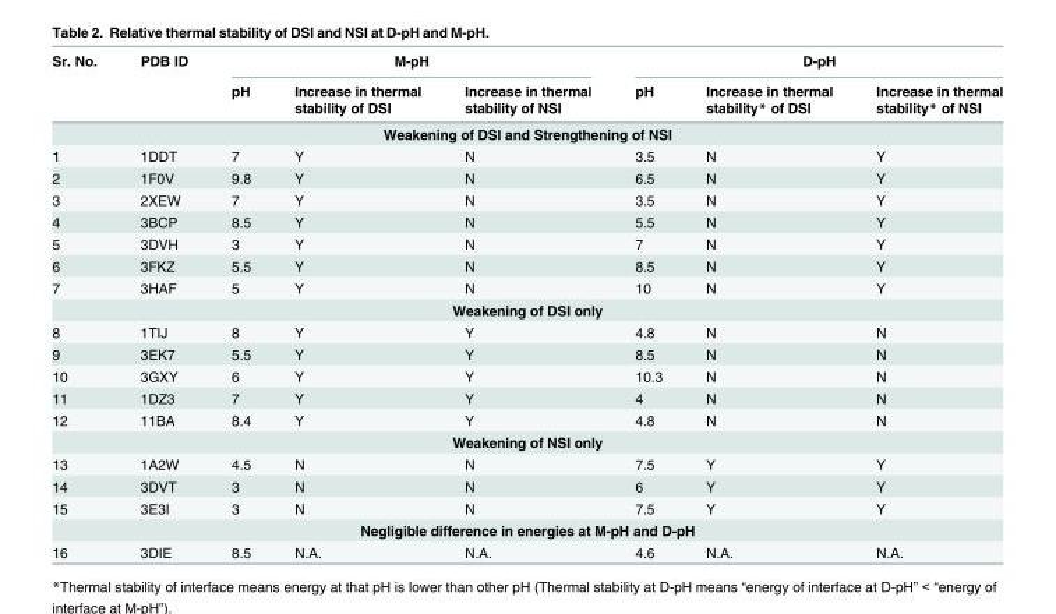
<table><thead><tr><td rowspan="2">Sr. No.</td><td rowspan="2">PDB ID</td><td colspan="3">M-pH</td><td colspan="3">D-pH</td></tr><tr><td>pH</td><td>Increase in thermal stability of DSI</td><td>Increase in thermal stability of NSI</td><td>pH</td><td>Increase in thermal stability* of DSI</td><td>Increase in thermal stability* of NSI</td></tr></thead><tbody><tr><td colspan="8">Weakening of DSI and Strengthening of NSI</td></tr><tr><td>1</td><td>1DDT</td><td>7</td><td>Y</td><td>N</td><td>3.5</td><td>N</td><td>Y</td></tr><tr><td>2</td><td>1F0V</td><td>9.8</td><td>Y</td><td>N</td><td>6.5</td><td>N</td><td>Y</td></tr><tr><td>3</td><td>2XEW</td><td>7</td><td>Y</td><td>N</td><td>3.5</td><td>N</td><td>Y</td></tr><tr><td>4</td><td>3BCP</td><td>8.5</td><td>Y</td><td>N</td><td>5.5</td><td>N</td><td>Y</td></tr><tr><td>5</td><td>3DVH</td><td>3</td><td>Y</td><td>N</td><td>7</td><td>N</td><td>Y</td></tr><tr><td>6</td><td>3FKZ</td><td>5.5</td><td>Y</td><td>N</td><td>8.5</td><td>N</td><td>Y</td></tr><tr><td>7</td><td>3HAF</td><td>5</td><td>Y</td><td>N</td><td>10</td><td>N</td><td>Y</td></tr><tr><td colspan="8">Weakening of DSI only</td></tr><tr><td>8</td><td>1TIJ</td><td>8</td><td>Y</td><td>Y</td><td>4.8</td><td>N</td><td>N</td></tr><tr><td>9</td><td>3EK7</td><td>5.5</td><td>Y</td><td>Y</td><td>8.5</td><td>N</td><td>N</td></tr><tr><td>10</td><td>3GXY</td><td>6</td><td>Y</td><td>Y</td><td>10.3</td><td>N</td><td>N</td></tr><tr><td>11</td><td>1DZ3</td><td>7</td><td>Y</td><td>Y</td><td>4</td><td>N</td><td>N</td></tr><tr><td>12</td><td>11BA</td><td>8.4</td><td>Y</td><td>Y</td><td>4.8</td><td>N</td><td>N</td></tr><tr><td colspan="8">Weakening of NSI only</td></tr><tr><td>13</td><td>1A2W</td><td>4.5</td><td>N</td><td>N</td><td>7.5</td><td>Y</td><td>Y</td></tr><tr><td>14</td><td>3DVT</td><td>3</td><td>N</td><td>N</td><td>6</td><td>Y</td><td>Y</td></tr><tr><td>15</td><td>3E3I</td><td>3</td><td>N</td><td>N</td><td>7.5</td><td>Y</td><td>Y</td></tr><tr><td colspan="8">Negligible difference in energies at M-pH and D-pH</td></tr><tr><td>16</td><td>3DIE</td><td>8.5</td><td>N.A.</td><td>N.A.</td><td>4.6</td><td>N.A.</td><td>N.A.</td></tr></tbody></table>